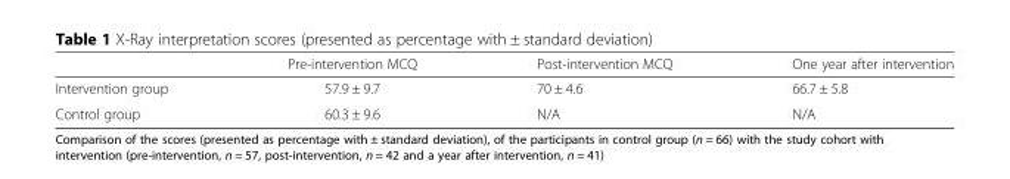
<table><thead><tr><td></td><td>Pre-intervention MCQ</td><td>Post-intervention MCQ</td><td>One year after intervention</td></tr></thead><tbody><tr><td>Intervention group</td><td>57.9 ± 9.7</td><td>70 ± 4.6</td><td>66.7 ± 5.8</td></tr><tr><td>Control group</td><td>60.3 ± 9.6</td><td>N/A</td><td>N/A</td></tr></tbody></table>